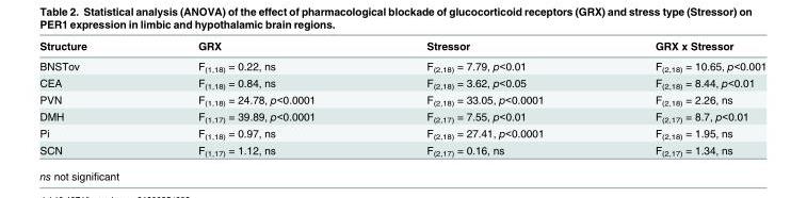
<table><thead><tr><td>Structure</td><td>GRX</td><td>Stressor</td><td>GRX x Stressor</td></tr></thead><tbody><tr><td>BNSTov</td><td>F<sub>(1,18)</sub> = 0.22, ns</td><td>F<sub>(2,18)</sub> = 7.79, p&lt;0.01</td><td>F<sub>(2,18)</sub> = 10.65, p&lt;0.001</td></tr><tr><td>CEA</td><td>F<sub>(1,18)</sub> = 0.84, ns</td><td>F<sub>(2,18)</sub> = 3.62, p&lt;0.05</td><td>F<sub>(2,18)</sub> = 8.44, p&lt;0.01</td></tr><tr><td>PVN</td><td>F<sub>(1,18)</sub> = 24.78, p&lt;0.0001</td><td>F<sub>(2,18)</sub> = 33.05, p&lt;0.0001</td><td>F<sub>(2,18)</sub> = 2.26, ns</td></tr><tr><td>DMH</td><td>F<sub>(1,17)</sub> = 39.89, p&lt;0.0001</td><td>F<sub>(2,17)</sub> = 7.55, p&lt;0.01</td><td>F<sub>(2,17)</sub> = 8.7, p&lt;0.01</td></tr><tr><td>Pi</td><td>F<sub>(1,18)</sub> = 0.97, ns</td><td>F<sub>(2,18)</sub> = 27.41, p&lt;0.0001</td><td>F<sub>(2,18)</sub> = 1.95, ns</td></tr><tr><td>SCN</td><td>F<sub>(1,17)</sub> = 1.12, ns</td><td>F<sub>(2,17)</sub> = 0.16, ns</td><td>F<sub>(2,17)</sub> = 1.34, ns</td></tr></tbody></table>